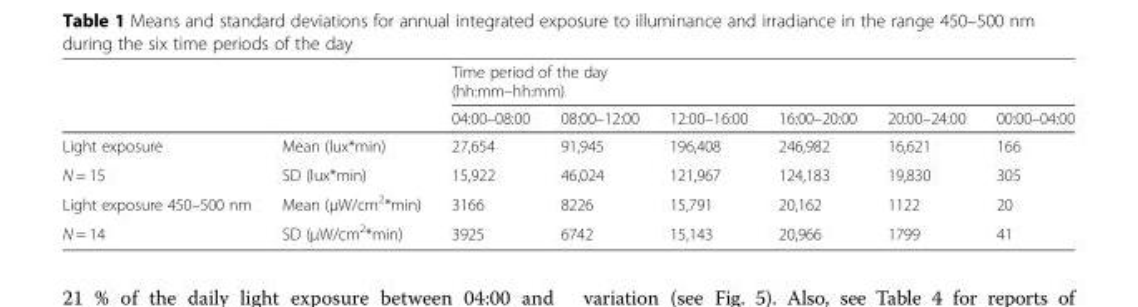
<table><thead><tr><td rowspan="2"></td><td rowspan="2"></td><td colspan="6">Time period of the day (hh:mm–hh:mm)</td></tr><tr><td>04:00–08:00</td><td>08:00–12:00</td><td>12:00–16:00</td><td>16:00–20:00</td><td>20:00–24:00</td><td>00:00–04:00</td></tr></thead><tbody><tr><td>Light exposure</td><td>Mean (lux*min)</td><td>27,654</td><td>91,945</td><td>196,408</td><td>246,982</td><td>16,621</td><td>166</td></tr><tr><td>N = 15</td><td>SD (lux*min)</td><td>15,922</td><td>46,024</td><td>121,967</td><td>124,183</td><td>19,830</td><td>305</td></tr><tr><td>Light exposure 450–500 nm</td><td>Mean (μW/cm<sup>2</sup>*min)</td><td>3166</td><td>8226</td><td>15,791</td><td>20,162</td><td>1122</td><td>20</td></tr><tr><td>N = 14</td><td>SD (μW/cm<sup>2</sup>*min)</td><td>3925</td><td>6742</td><td>15,143</td><td>20,966</td><td>1799</td><td>41</td></tr></tbody></table>